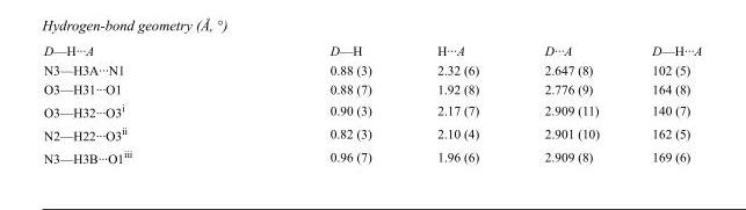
<table><tbody><tr><td>D—H···A</td><td>D—H</td><td>H···A</td><td>D···A</td><td>D—H···A</td></tr><tr><td>N3—H3A···N1</td><td>0.88 (3)</td><td>2.32 (6)</td><td>2.647 (8)</td><td>102 (5)</td></tr><tr><td>O3—H31···O1</td><td>0.88 (7)</td><td>1.92 (8)</td><td>2.776 (9)</td><td>164 (8)</td></tr><tr><td>O3—H32···O3<sup>i</sup></td><td>0.90 (3)</td><td>2.17 (7)</td><td>2.909 (11)</td><td>140 (7)</td></tr><tr><td>N2—H22···O3<sup>ii</sup></td><td>0.82 (3)</td><td>2.10 (4)</td><td>2.901 (10)</td><td>162 (5)</td></tr><tr><td>N3—H3B···O1<sup>iii</sup></td><td>0.96 (7)</td><td>1.96 (6)</td><td>2.909 (8)</td><td>169 (6)</td></tr></tbody></table>